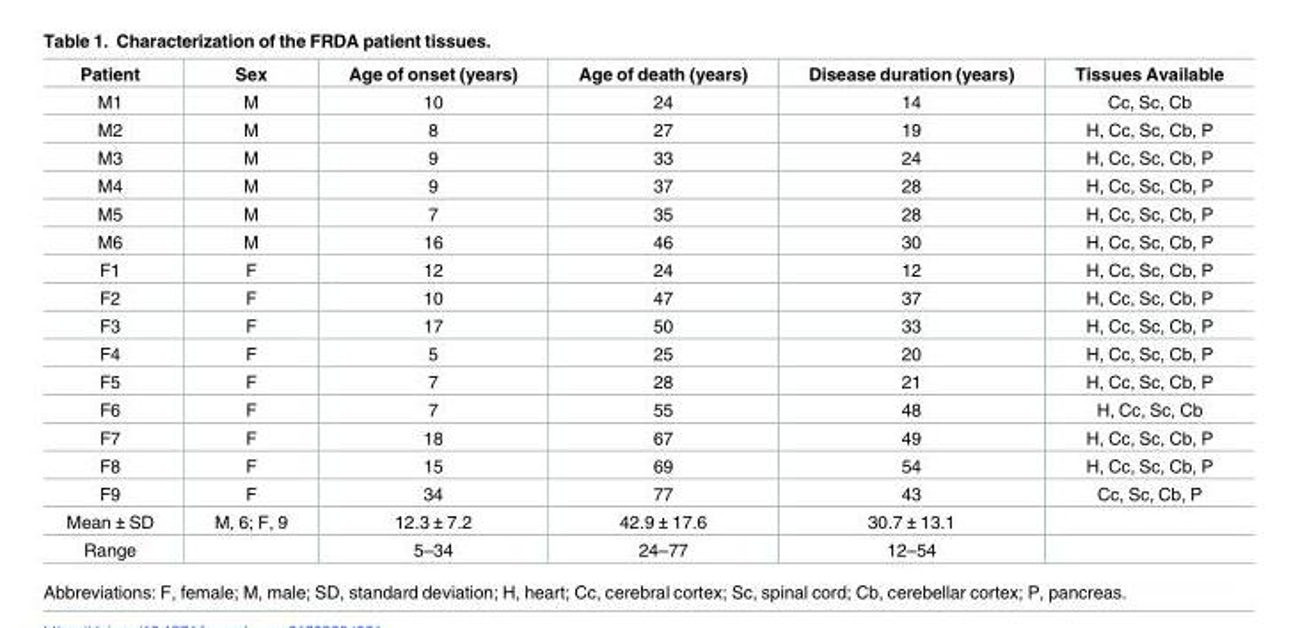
<table><thead><tr><td>Patient</td><td>Sex</td><td>Age of onset (years)</td><td>Age of death (years)</td><td>Disease duration (years)</td><td>Tissues Available</td></tr></thead><tbody><tr><td>M1</td><td>M</td><td>10</td><td>24</td><td>14</td><td>Cc, Sc, Cb</td></tr><tr><td>M2</td><td>M</td><td>8</td><td>27</td><td>19</td><td>H, Cc, Sc, Cb, P</td></tr><tr><td>M3</td><td>M</td><td>9</td><td>33</td><td>24</td><td>H, Cc, Sc, Cb, P</td></tr><tr><td>M4</td><td>M</td><td>9</td><td>37</td><td>28</td><td>H, Cc, Sc, Cb, P</td></tr><tr><td>M5</td><td>M</td><td>7</td><td>35</td><td>28</td><td>H, Cc, Sc, Cb, P</td></tr><tr><td>M6</td><td>M</td><td>16</td><td>46</td><td>30</td><td>H, Cc, Sc, Cb, P</td></tr><tr><td>F1</td><td>F</td><td>12</td><td>24</td><td>12</td><td>H, Cc, Sc, Cb, P</td></tr><tr><td>F2</td><td>F</td><td>10</td><td>47</td><td>37</td><td>H, Cc, Sc, Cb, P</td></tr><tr><td>F3</td><td>F</td><td>17</td><td>50</td><td>33</td><td>H, Cc, Sc, Cb, P</td></tr><tr><td>F4</td><td>F</td><td>5</td><td>25</td><td>20</td><td>H, Cc, Sc, Cb, P</td></tr><tr><td>F5</td><td>F</td><td>7</td><td>28</td><td>21</td><td>H, Cc, Sc, Cb, P</td></tr><tr><td>F6</td><td>F</td><td>7</td><td>55</td><td>48</td><td>H, Cc, Sc, Cb</td></tr><tr><td>F7</td><td>F</td><td>18</td><td>67</td><td>49</td><td>H, Cc, Sc, Cb, P</td></tr><tr><td>F8</td><td>F</td><td>15</td><td>69</td><td>54</td><td>H, Cc, Sc, Cb, P</td></tr><tr><td>F9</td><td>F</td><td>34</td><td>77</td><td>43</td><td>Cc, Sc, Cb, P</td></tr><tr><td>Mean ± SD</td><td>M, 6; F, 9</td><td>12.3 ± 7.2</td><td>42.9 ± 17.6</td><td>30.7 ± 13.1</td><td></td></tr><tr><td>Range</td><td></td><td>5–34</td><td>24–77</td><td>12–54</td><td></td></tr></tbody></table>